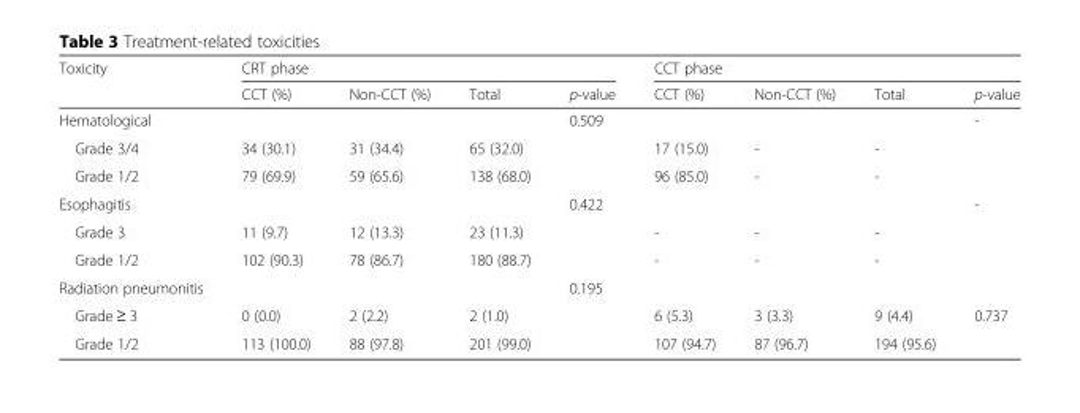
<table><thead><tr><td rowspan="2">Toxicity</td><td colspan="4">CRT phase</td><td colspan="4">CCT phase</td></tr><tr><td>CCT (%)</td><td>Non-CCT (%)</td><td>Total</td><td>p-value</td><td>CCT (%)</td><td>Non-CCT (%)</td><td>Total</td><td>p-value</td></tr></thead><tbody><tr><td>Hematological</td><td></td><td></td><td></td><td>0.509</td><td></td><td></td><td></td><td>-</td></tr><tr><td>Grade 3/4</td><td>34 (30.1)</td><td>31 (34.4)</td><td>65 (32.0)</td><td></td><td>17 (15.0)</td><td>-</td><td>-</td><td></td></tr><tr><td>Grade 1/2</td><td>79 (69.9)</td><td>59 (65.6)</td><td>138 (68.0)</td><td></td><td>96 (85.0)</td><td>-</td><td>-</td><td></td></tr><tr><td>Esophagitis</td><td></td><td></td><td></td><td>0.422</td><td></td><td></td><td></td><td>-</td></tr><tr><td>Grade 3</td><td>11 (9.7)</td><td>12 (13.3)</td><td>23 (11.3)</td><td></td><td>-</td><td>-</td><td>-</td><td></td></tr><tr><td>Grade 1/2</td><td>102 (90.3)</td><td>78 (86.7)</td><td>180 (88.7)</td><td></td><td>-</td><td>-</td><td>-</td><td></td></tr><tr><td>Radiation pneumonitis</td><td></td><td></td><td></td><td>0.195</td><td></td><td></td><td></td><td></td></tr><tr><td>Grade ≥ 3</td><td>0 (0.0)</td><td>2 (2.2)</td><td>2 (1.0)</td><td></td><td>6 (5.3)</td><td>3 (3.3)</td><td>9 (4.4)</td><td>0.737</td></tr><tr><td>Grade 1/2</td><td>113 (100.0)</td><td>88 (97.8)</td><td>201 (99.0)</td><td></td><td>107 (94.7)</td><td>87 (96.7)</td><td>194 (95.6)</td><td></td></tr></tbody></table>